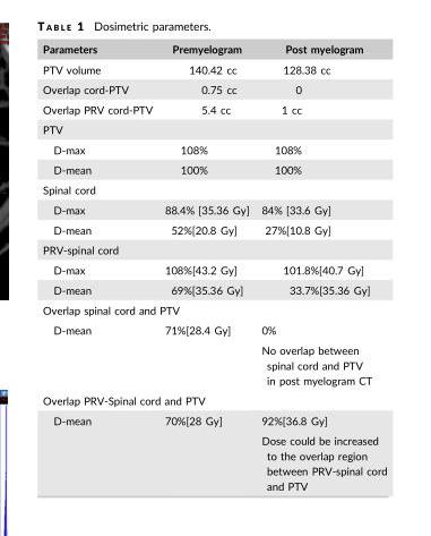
<table><thead><tr><td>Parameters</td><td>Premyelogram</td><td>Post myelogram</td></tr></thead><tbody><tr><td>PTV volume</td><td>140.42 cc</td><td>128.38 cc</td></tr><tr><td>Overlap cord-PTV</td><td>0.75 cc</td><td>0</td></tr><tr><td>Overlap PRV cord-PTV</td><td>5.4 cc</td><td>1 cc</td></tr><tr><td colspan="3">PTV</td></tr><tr><td>D-max</td><td>108%</td><td>108%</td></tr><tr><td>D-mean</td><td>100%</td><td>100%</td></tr><tr><td colspan="3">Spinal cord</td></tr><tr><td>D-max</td><td>88.4% [35.36 Gy]</td><td>84% [33.6 Gy]</td></tr><tr><td>D-mean</td><td>52%[20.8 Gy]</td><td>27%[10.8 Gy]</td></tr><tr><td colspan="3">PRV-spinal cord</td></tr><tr><td>D-max</td><td>108%[43.2 Gy]</td><td>101.8%[40.7 Gy]</td></tr><tr><td>D-mean</td><td>69%[35.36 Gy]</td><td>33.7%[35.36 Gy]</td></tr><tr><td colspan="3">Overlap spinal cord and PTV</td></tr><tr><td rowspan="2">D-mean</td><td>71%[28.4 Gy]</td><td>0%</td></tr><tr><td></td><td>No overlap between spinal cord and PTV in post myelogram CT</td></tr><tr><td colspan="3">Overlap PRV-Spinal cord and PTV</td></tr><tr><td rowspan="2">D-mean</td><td>70%[28 Gy]</td><td>92%[36.8 Gy]</td></tr><tr><td></td><td>Dose could be increased to the overlap region between PRV-spinal cord and PTV</td></tr></tbody></table>